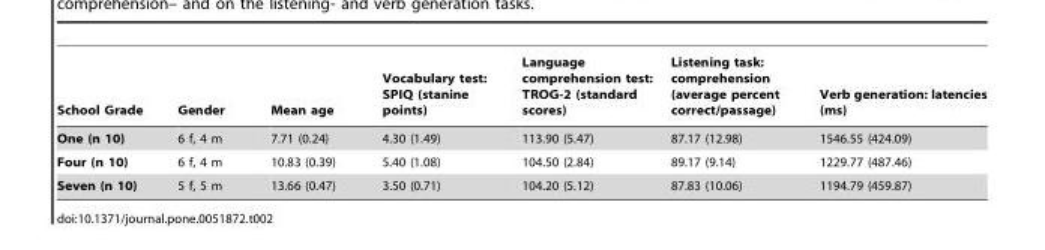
<table><thead><tr><td>School Grade</td><td>Gender</td><td>Mean age</td><td>Vocabulary test: SPIQ (stanine points)</td><td>Language comprehension test: TROG-2 (standard scores)</td><td>Listening task: comprehension (average percent correct/passage)</td><td>Verb generation: latencies (ms)</td></tr></thead><tbody><tr><td>One (n 10)</td><td>6 f, 4 m</td><td>7.71 (0.24)</td><td>4.30 (1.49)</td><td>113.90 (5.47)</td><td>87.17 (12.98)</td><td>1546.55 (424.09)</td></tr><tr><td>Four (n 10)</td><td>6 f, 4 m</td><td>10.83 (0.39)</td><td>5.40 (1.08)</td><td>104.50 (2.84)</td><td>89.17 (9.14)</td><td>1229.77 (487.46)</td></tr><tr><td>Seven (n 10)</td><td>5 f, 5 m</td><td>13.66 (0.47)</td><td>3.50 (0.71)</td><td>104.20 (5.12)</td><td>87.83 (10.06)</td><td>1194.79 (459.87)</td></tr></tbody></table>